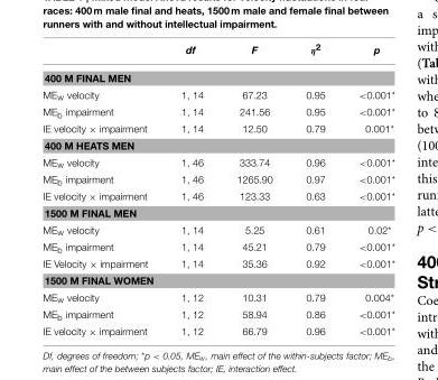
<table><thead><tr><td></td><td>df</td><td>F</td><td>η<sup>2</sup></td><td>p</td></tr></thead><tbody><tr><td colspan="5">400 M FINAL MEN</td></tr><tr><td>ME<sub>w</sub> velocity</td><td>1, 14</td><td>67.23</td><td>0.95</td><td>&lt;0.001*</td></tr><tr><td>ME<sub>b</sub> impairment</td><td>1, 14</td><td>241.56</td><td>0.95</td><td>&lt;0.001*</td></tr><tr><td>IE velocity × impairment</td><td>1, 14</td><td>12.50</td><td>0.79</td><td>0.001*</td></tr><tr><td colspan="5">400 M HEATS MEN</td></tr><tr><td>ME<sub>w</sub> velocity</td><td>1, 46</td><td>333.74</td><td>0.96</td><td>&lt;0.001*</td></tr><tr><td>ME<sub>b</sub> impairment</td><td>1, 46</td><td>1265.90</td><td>0.97</td><td>&lt;0.001*</td></tr><tr><td>IE velocity × impairment</td><td>1, 46</td><td>123.33</td><td>0.63</td><td>&lt;0.001*</td></tr><tr><td colspan="5">1500 M FINAL MEN</td></tr><tr><td>ME<sub>w</sub> velocity</td><td>1, 14</td><td>5.25</td><td>0.61</td><td>0.02*</td></tr><tr><td>ME<sub>b</sub> impairment</td><td>1, 14</td><td>45.21</td><td>0.79</td><td>&lt;0.001*</td></tr><tr><td>IE Velocity × impairment</td><td>1, 14</td><td>35.36</td><td>0.92</td><td>&lt;0.001*</td></tr><tr><td colspan="5">1500 M FINAL WOMEN</td></tr><tr><td>ME<sub>w</sub> velocity</td><td>1, 12</td><td>10.31</td><td>0.79</td><td>0.004*</td></tr><tr><td>ME<sub>b</sub> impairment</td><td>1, 12</td><td>58.94</td><td>0.86</td><td>&lt;0.001*</td></tr><tr><td>IE velocity × impairment</td><td>1, 12</td><td>66.79</td><td>0.96</td><td>&lt;0.001*</td></tr></tbody></table>